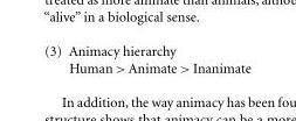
<table><tbody><tr><td rowspan="2">(3)</td><td>Animacy hierarchy</td></tr><tr><td>Human &gt;Animate &gt; Inanimate</td></tr></tbody></table>